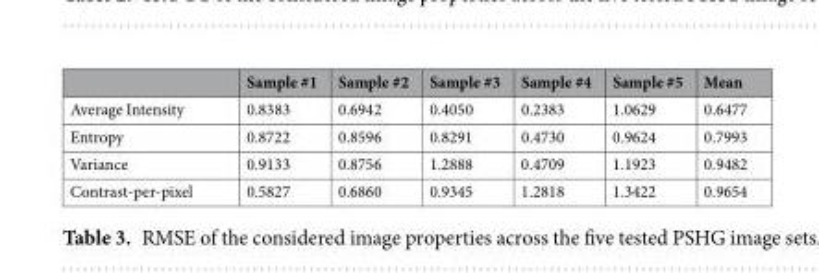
<table><thead><tr><td></td><td>Sample #1</td><td>Sample #2</td><td>Sample #3</td><td>Sample #4</td><td>Sample #5</td><td>Mean</td></tr></thead><tbody><tr><td>Average Intensity</td><td>0.8383</td><td>0.6942</td><td>0.4050</td><td>0.2383</td><td>1.0629</td><td>0.6477</td></tr><tr><td>Entropy</td><td>0.8722</td><td>0.8596</td><td>0.8291</td><td>0.4730</td><td>0.9624</td><td>0.7993</td></tr><tr><td>Variance</td><td>0.9133</td><td>0.8756</td><td>1.2888</td><td>0.4709</td><td>1.1923</td><td>0.9482</td></tr><tr><td>Contrast-per-pixel</td><td>0.5827</td><td>0.6860</td><td>0.9345</td><td>1.2818</td><td>1.3422</td><td>0.9654</td></tr></tbody></table>